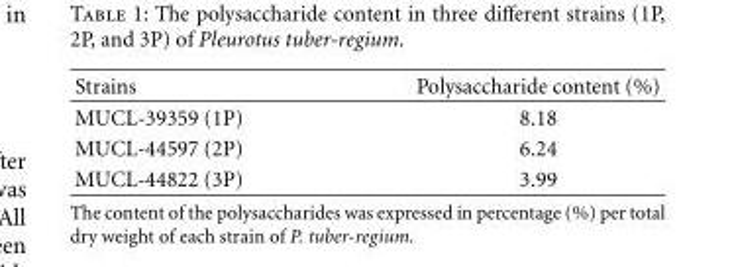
<table><thead><tr><td>Strains</td><td>Polysaccharide content (%)</td></tr></thead><tbody><tr><td>MUCL-39359 (1P)</td><td>8.18</td></tr><tr><td>MUCL-44597 (2P)</td><td>6.24</td></tr><tr><td>MUCL-44822 (3P)</td><td>3.99</td></tr></tbody></table>